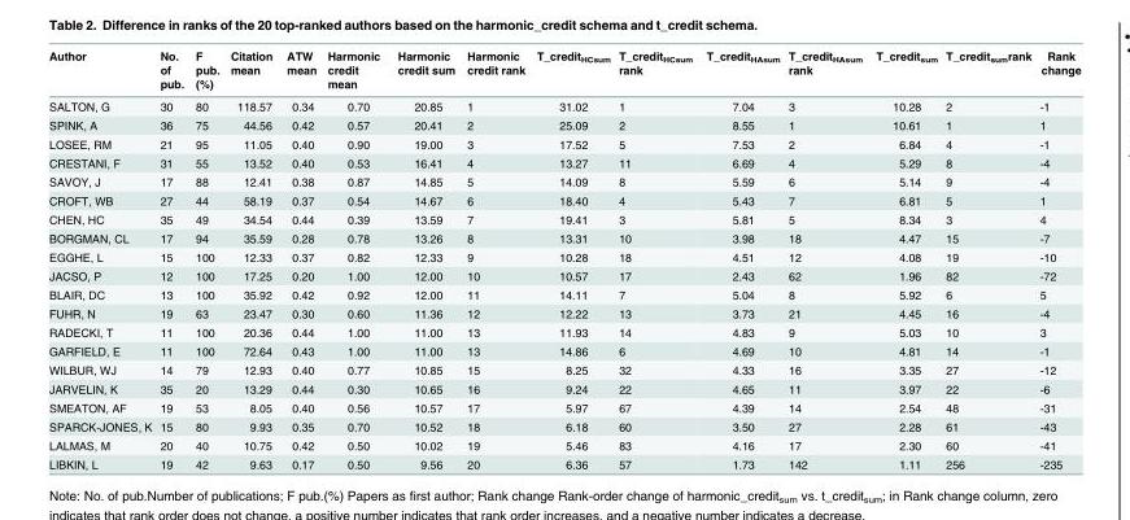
<table><thead><tr><td>Author</td><td>No. of pub.</td><td>F pub. (%)</td><td>Citation mean</td><td>ATW mean</td><td>Harmonic credit mean</td><td>Harmonic credit sum</td><td>Harmonic credit rank</td><td>T_credit<sub>HCsum</sub></td><td>T_credit<sub>HCsum</sub> rank</td><td>T_credit<sub>HAsum</sub></td><td>T_credit<sub>HAsum</sub> rank</td><td>T_credit<sub>sum</sub></td><td>T_credit<sub>sum</sub>rank</td><td>Rank change</td></tr></thead><tbody><tr><td>SALTON, G</td><td>30</td><td>80</td><td>118.57</td><td>0.34</td><td>0.70</td><td>20.85</td><td>1</td><td>31.02</td><td>1</td><td>7.04</td><td>3</td><td>10.28</td><td>2</td><td>-1</td></tr><tr><td>SPINK, A</td><td>36</td><td>75</td><td>44.56</td><td>0.42</td><td>0.57</td><td>20.41</td><td>2</td><td>25.09</td><td>2</td><td>8.55</td><td>1</td><td>10.61</td><td>1</td><td>1</td></tr><tr><td>LOSEE, RM</td><td>21</td><td>95</td><td>11.05</td><td>0.40</td><td>0.90</td><td>19.00</td><td>3</td><td>17.52</td><td>5</td><td>7.53</td><td>2</td><td>6.84</td><td>4</td><td>-1</td></tr><tr><td>CRESTANI, F</td><td>31</td><td>55</td><td>13.52</td><td>0.40</td><td>0.53</td><td>16.41</td><td>4</td><td>13.27</td><td>11</td><td>6.69</td><td>4</td><td>5.29</td><td>8</td><td>-4</td></tr><tr><td>SAVOY, J</td><td>17</td><td>88</td><td>12.41</td><td>0.38</td><td>0.87</td><td>14.85</td><td>5</td><td>14.09</td><td>8</td><td>5.59</td><td>6</td><td>5.14</td><td>9</td><td>-4</td></tr><tr><td>CROFT, WB</td><td>27</td><td>44</td><td>58.19</td><td>0.37</td><td>0.54</td><td>14.67</td><td>6</td><td>18.40</td><td>4</td><td>5.43</td><td>7</td><td>6.81</td><td>5</td><td>1</td></tr><tr><td>CHEN, HC</td><td>35</td><td>49</td><td>34.54</td><td>0.44</td><td>0.39</td><td>13.59</td><td>7</td><td>19.41</td><td>3</td><td>5.81</td><td>5</td><td>8.34</td><td>3</td><td>4</td></tr><tr><td>BORGMAN, CL</td><td>17</td><td>94</td><td>35.59</td><td>0.28</td><td>0.78</td><td>13.26</td><td>8</td><td>13.31</td><td>10</td><td>3.98</td><td>18</td><td>4.47</td><td>15</td><td>-7</td></tr><tr><td>EGGHE, L</td><td>15</td><td>100</td><td>12.33</td><td>0.37</td><td>0.82</td><td>12.33</td><td>9</td><td>10.28</td><td>18</td><td>4.51</td><td>12</td><td>4.08</td><td>19</td><td>-10</td></tr><tr><td>JACSO, P</td><td>12</td><td>100</td><td>17.25</td><td>0.20</td><td>1.00</td><td>12.00</td><td>10</td><td>10.57</td><td>17</td><td>2.43</td><td>62</td><td>1.96</td><td>82</td><td>-72</td></tr><tr><td>BLAIR, DC</td><td>13</td><td>100</td><td>35.92</td><td>0.42</td><td>0.92</td><td>12.00</td><td>11</td><td>14.11</td><td>7</td><td>5.04</td><td>8</td><td>5.92</td><td>6</td><td>5</td></tr><tr><td>FUHR, N</td><td>19</td><td>63</td><td>23.47</td><td>0.30</td><td>0.60</td><td>11.36</td><td>12</td><td>12.22</td><td>13</td><td>3.73</td><td>21</td><td>4.45</td><td>16</td><td>-4</td></tr><tr><td>RADECKI, T</td><td>11</td><td>100</td><td>20.36</td><td>0.44</td><td>1.00</td><td>11.00</td><td>13</td><td>11.93</td><td>14</td><td>4.83</td><td>9</td><td>5.03</td><td>10</td><td>3</td></tr><tr><td>GARFIELD, E</td><td>11</td><td>100</td><td>72.64</td><td>0.43</td><td>1.00</td><td>11.00</td><td>13</td><td>14.86</td><td>6</td><td>4.69</td><td>10</td><td>4.81</td><td>14</td><td>-1</td></tr><tr><td>WILBUR, WJ</td><td>14</td><td>79</td><td>12.93</td><td>0.40</td><td>0.77</td><td>10.85</td><td>15</td><td>8.25</td><td>32</td><td>4.33</td><td>16</td><td>3.35</td><td>27</td><td>-12</td></tr><tr><td>JARVELIN, K</td><td>35</td><td>20</td><td>13.29</td><td>0.44</td><td>0.30</td><td>10.65</td><td>16</td><td>9.24</td><td>22</td><td>4.65</td><td>11</td><td>3.97</td><td>22</td><td>-6</td></tr><tr><td>SMEATON, AF</td><td>19</td><td>53</td><td>8.05</td><td>0.40</td><td>0.56</td><td>10.57</td><td>17</td><td>5.97</td><td>67</td><td>4.39</td><td>14</td><td>2.54</td><td>48</td><td>-31</td></tr><tr><td>SPARCK-JONES, K</td><td>15</td><td>80</td><td>9.93</td><td>0.35</td><td>0.70</td><td>10.52</td><td>18</td><td>6.18</td><td>60</td><td>3.50</td><td>27</td><td>2.28</td><td>61</td><td>-43</td></tr><tr><td>LALMAS, M</td><td>20</td><td>40</td><td>10.75</td><td>0.42</td><td>0.50</td><td>10.02</td><td>19</td><td>5.46</td><td>83</td><td>4.16</td><td>17</td><td>2.30</td><td>60</td><td>-41</td></tr><tr><td>LIBKIN, L</td><td>19</td><td>42</td><td>9.63</td><td>0.17</td><td>0.50</td><td>9.56</td><td>20</td><td>6.36</td><td>57</td><td>1.73</td><td>142</td><td>1.11</td><td>256</td><td>-235</td></tr></tbody></table>